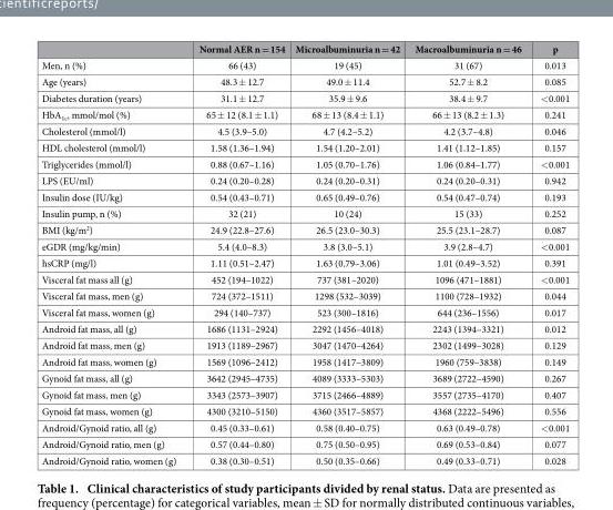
<table><thead><tr><td></td><td>Normal AER n = 154</td><td>Microalbuminuria n = 42</td><td>Macroalbuminuria n = 46</td><td>p</td></tr></thead><tbody><tr><td>Men, n (%)</td><td>66 (43)</td><td>19 (45)</td><td>31 (67)</td><td>0.013</td></tr><tr><td>Age (years)</td><td>48.3 ± 12.7</td><td>49.0 ± 11.4</td><td>52.7 ± 8.2</td><td>0.085</td></tr><tr><td>Diabetes duration (years)</td><td>31.1 ± 12.7</td><td>35.9 ± 9.6</td><td>38.4 ± 9.7</td><td>&lt; 0.001</td></tr><tr><td>HbA<sub>1c</sub>, mmol/mol (%)</td><td>65 ± 12 (8.1 ± 1.1)</td><td>68 ± 13 (8.4 ± 1.1)</td><td>66 ± 13 (8.2 ± 1.3)</td><td>0.241</td></tr><tr><td>Cholesterol (mmol/l)</td><td>4.5 (3.9–5.0)</td><td>4.7 (4.2–5.2)</td><td>4.2 (3.7–4.8)</td><td>0.046</td></tr><tr><td>HDL cholesterol (mmol/l)</td><td>1.58 (1.36–1.94)</td><td>1.54 (1.20–2.01)</td><td>1.41 (1.12–1.85)</td><td>0.157</td></tr><tr><td>Triglycerides (mmol/l)</td><td>0.88 (0.67–1.16)</td><td>1.05 (0.70–1.76)</td><td>1.06 (0.84–1.77)</td><td>&lt; 0.001</td></tr><tr><td>LPS (EU/ml)</td><td>0.24 (0.20–0.28)</td><td>0.24 (0.20–0.31)</td><td>0.24 (0.20–0.31)</td><td>0.942</td></tr><tr><td>Insulin dose (IU/kg)</td><td>0.54 (0.43–0.71)</td><td>0.65 (0.49–0.76)</td><td>0.54 (0.47–0.74)</td><td>0.193</td></tr><tr><td>Insulin pump, n (%)</td><td>32 (21)</td><td>10 (24)</td><td>15 (33)</td><td>0.252</td></tr><tr><td>BMI (kg/m<sup>2</sup>)</td><td>24.9 (22.8–27.6)</td><td>26.5 (23.0–30.3)</td><td>25.5 (23.1–28.7)</td><td>0.087</td></tr><tr><td>eGDR (mg/kg/min)</td><td>5.4 (4.0–8.3)</td><td>3.8 (3.0–5.1)</td><td>3.9 (2.8–4.7)</td><td>&lt; 0.001</td></tr><tr><td>hsCRP (mg/l)</td><td>1.11 (0.51–2.47)</td><td>1.63 (0.79–3.06)</td><td>1.01 (0.49–3.52)</td><td>0.391</td></tr><tr><td>Visceral fat mass all (g)</td><td>452 (194–1022)</td><td>737 (381–2020)</td><td>1096 (471–1881)</td><td>&lt; 0.001</td></tr><tr><td>Visceral fat mass, men (g)</td><td>724 (372–1511)</td><td>1298 (532–3039)</td><td>1100 (728–1932)</td><td>0.044</td></tr><tr><td>Visceral fat mass, women (g)</td><td>294 (140–737)</td><td>523 (300–1816)</td><td>644 (236–1556)</td><td>0.017</td></tr><tr><td>Android fat mass, all (g)</td><td>1686 (1131–2924)</td><td>2292 (1456–4018)</td><td>2243 (1394–3321)</td><td>0.012</td></tr><tr><td>Android fat mass, men (g)</td><td>1913 (1189–2967)</td><td>3047 (1470–4264)</td><td>2302 (1499–3028)</td><td>0.129</td></tr><tr><td>Android fat mass, women (g)</td><td>1569 (1096–2412)</td><td>1958 (1417–3809)</td><td>1960 (759–3838)</td><td>0.149</td></tr><tr><td>Gynoid fat mass, all (g)</td><td>3642 (2945–4735)</td><td>4089 (3333–5303)</td><td>3689 (2722–4590)</td><td>0.267</td></tr><tr><td>Gynoid fat mass, men (g)</td><td>3343 (2573–3907)</td><td>3715 (2466–4889)</td><td>3557 (2735–4170)</td><td>0.407</td></tr><tr><td>Gynoid fat mass, women (g)</td><td>4300 (3210–5150)</td><td>4360 (3517–5857)</td><td>4368 (2222–5496)</td><td>0.556</td></tr><tr><td>Android/Gynoid ratio, all (g)</td><td>0.45 (0.33–0.61)</td><td>0.58 (0.40–0.75)</td><td>0.63 (0.49–0.78)</td><td>&lt; 0.001</td></tr><tr><td>Android/Gynoid ratio, men (g)</td><td>0.57 (0.44–0.80)</td><td>0.75 (0.50–0.95)</td><td>0.69 (0.53–0.84)</td><td>0.077</td></tr><tr><td>Android/Gynoid ratio, women (g)</td><td>0.38 (0.30–0.51)</td><td>0.50 (0.35–0.66)</td><td>0.49 (0.33–0.71)</td><td>0.028</td></tr></tbody></table>